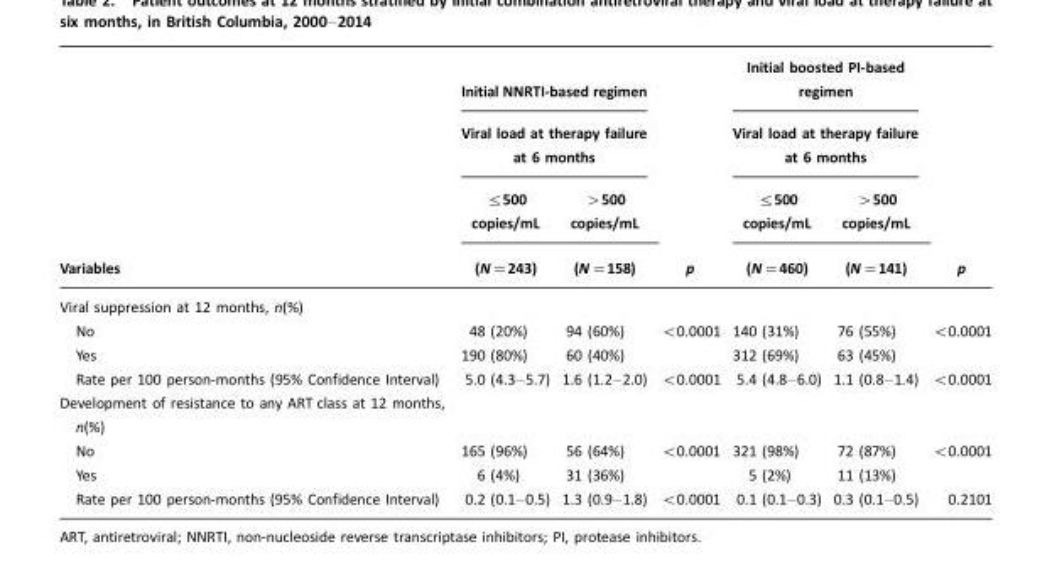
<table><thead><tr><td rowspan="4">Variables</td><td rowspan="2" colspan="2">Initial NNRTI-based regimen Viral load at therapy failure at 6 months</td><td rowspan="4">p</td><td rowspan="2" colspan="2">Initial boosted PI-based regimen Viral load at therapy failure at 6 months</td><td rowspan="4">p</td></tr><tr></tr><tr><td rowspan="2">≤500 copies/mL (N=243)</td><td rowspan="2">&gt;500 copies/mL (N=158)</td><td rowspan="2">≤500 copies/mL (N=460)</td><td rowspan="2">&gt;500 copies/mL (N=141)</td></tr><tr></tr></thead><tbody><tr><td colspan="7">Viral suppression at 12 months, n(%)</td></tr><tr><td>No</td><td>48 (20%)</td><td>94 (60%)</td><td>&lt;0.0001</td><td>140 (31%)</td><td>76 (55%)</td><td>&lt;0.0001</td></tr><tr><td>Yes</td><td>190 (80%)</td><td>60 (40%)</td><td></td><td>312 (69%)</td><td>63 (45%)</td><td></td></tr><tr><td>Rate per 100 person-months (95% Confidence Interval)</td><td>5.0 (4.3–5.7)</td><td>1.6 (1.2–2.0)</td><td>&lt;0.0001</td><td>5.4 (4.8–6.0)</td><td>1.1 (0.8–1.4)</td><td>&lt;0.0001</td></tr><tr><td colspan="7">Development of resistance to any ART class at 12 months, n(%)</td></tr><tr><td>No</td><td>165 (96%)</td><td>56 (64%)</td><td>&lt;0.0001</td><td>321 (98%)</td><td>72 (87%)</td><td>&lt;0.0001</td></tr><tr><td>Yes</td><td>6 (4%)</td><td>31 (36%)</td><td></td><td>5 (2%)</td><td>11 (13%)</td><td></td></tr><tr><td>Rate per 100 person-months (95% Confidence Interval)</td><td>0.2 (0.1–0.5)</td><td>1.3 (0.9–1.8)</td><td>&lt;0.0001</td><td>0.1 (0.1–0.3)</td><td>0.3 (0.1–0.5)</td><td>0.2101</td></tr></tbody></table>